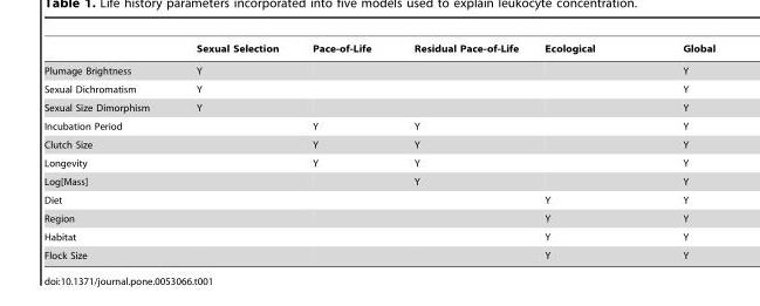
<table><thead><tr><td></td><td>Sexual Selection</td><td>Pace-of-Life</td><td>Residual Pace-of-Life</td><td>Ecological</td><td>Global</td></tr></thead><tbody><tr><td>Plumage Brightness</td><td>Y</td><td></td><td></td><td></td><td>Y</td></tr><tr><td>Sexual Dichromatism</td><td>Y</td><td></td><td></td><td></td><td>Y</td></tr><tr><td>Sexual Size Dimorphism</td><td>Y</td><td></td><td></td><td></td><td>Y</td></tr><tr><td>Incubation Period</td><td></td><td>Y</td><td>Y</td><td></td><td>Y</td></tr><tr><td>Clutch Size</td><td></td><td>Y</td><td>Y</td><td></td><td>Y</td></tr><tr><td>Longevity</td><td></td><td>Y</td><td>Y</td><td></td><td>Y</td></tr><tr><td>Log[Mass]</td><td></td><td></td><td>Y</td><td></td><td>Y</td></tr><tr><td>Diet</td><td></td><td></td><td></td><td>Y</td><td>Y</td></tr><tr><td>Region</td><td></td><td></td><td></td><td>Y</td><td>Y</td></tr><tr><td>Habitat</td><td></td><td></td><td></td><td>Y</td><td>Y</td></tr><tr><td>Flock Size</td><td></td><td></td><td></td><td>Y</td><td>Y</td></tr></tbody></table>